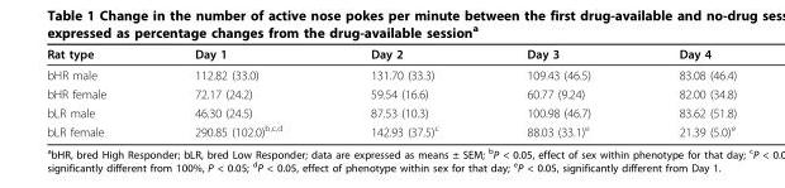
<table><thead><tr><td>Rat type</td><td>Day 1</td><td>Day 2</td><td>Day 3</td><td>Day 4</td></tr></thead><tbody><tr><td>bHR male</td><td>112.82 (33.0)</td><td>131.70 (33.3)</td><td>109.43 (46.5)</td><td>83.08 (46.4)</td></tr><tr><td>bHR female</td><td>72.17 (24.2)</td><td>59.54 (16.6)</td><td>60.77 (9.24)</td><td>82.00 (34.8)</td></tr><tr><td>bLR male</td><td>46.30 (24.5)</td><td>87.53 (10.3)</td><td>100.98 (46.7)</td><td>83.62 (51.8)</td></tr><tr><td>bLR female</td><td>290.85 (102.0)<sup>b,c,d</sup></td><td>142.93 (37.5)<sup>c</sup></td><td>88.03 (33.1)<sup>e</sup></td><td>21.39 (5.0)<sup>e</sup></td></tr></tbody></table>